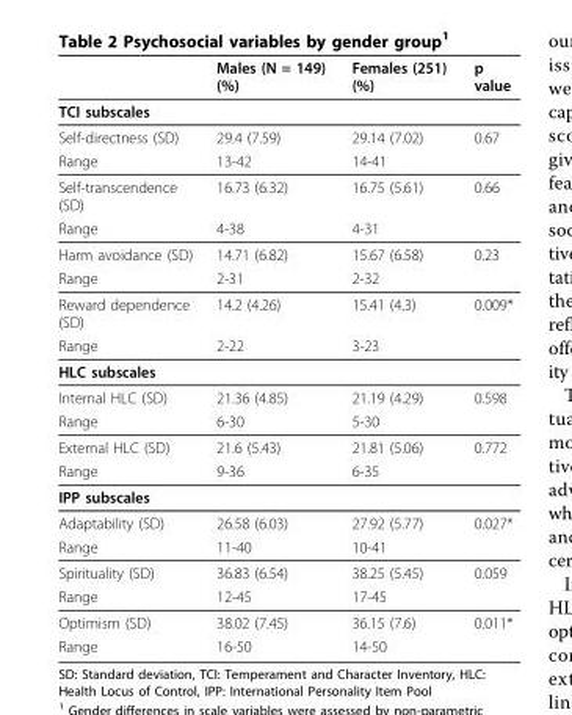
<table><thead><tr><td></td><td>Males (N = 149) (%)</td><td>Females (251) (%)</td><td>p value</td></tr></thead><tbody><tr><td colspan="4">TCI subscales</td></tr><tr><td>Self-directness (SD)</td><td>29.4 (7.59)</td><td>29.14 (7.02)</td><td>0.67</td></tr><tr><td>Range</td><td>13-42</td><td>14-41</td><td></td></tr><tr><td>Self-transcendence (SD)</td><td>16.73 (6.32)</td><td>16.75 (5.61)</td><td>0.66</td></tr><tr><td>Range</td><td>4-38</td><td>4-31</td><td></td></tr><tr><td>Harm avoidance (SD)</td><td>14.71 (6.82)</td><td>15.67 (6.58)</td><td>0.23</td></tr><tr><td>Range</td><td>2-31</td><td>2-32</td><td></td></tr><tr><td>Reward dependence (SD)</td><td>14.2 (4.26)</td><td>15.41 (4.3)</td><td>0.009*</td></tr><tr><td>Range</td><td>2-22</td><td>3-23</td><td></td></tr><tr><td colspan="4">HLC subscales</td></tr><tr><td>Internal HLC (SD)</td><td>21.36 (4.85)</td><td>21.19 (4.29)</td><td>0.598</td></tr><tr><td>Range</td><td>6-30</td><td>5-30</td><td></td></tr><tr><td>External HLC (SD)</td><td>21.6 (5.43)</td><td>21.81 (5.06)</td><td>0.772</td></tr><tr><td>Range</td><td>9-36</td><td>6-35</td><td></td></tr><tr><td colspan="4">IPP subscales</td></tr><tr><td>Adaptability (SD)</td><td>26.58 (6.03)</td><td>27.92 (5.77)</td><td>0.027*</td></tr><tr><td>Range</td><td>11-40</td><td>10-41</td><td></td></tr><tr><td>Spirituality (SD)</td><td>36.83 (6.54)</td><td>38.25 (5.45)</td><td>0.059</td></tr><tr><td>Range</td><td>12-45</td><td>17-45</td><td></td></tr><tr><td>Optimism (SD)</td><td>38.02 (7.45)</td><td>36.15 (7.6)</td><td>0.011*</td></tr><tr><td>Range</td><td>16-50</td><td>14-50</td><td></td></tr></tbody></table>